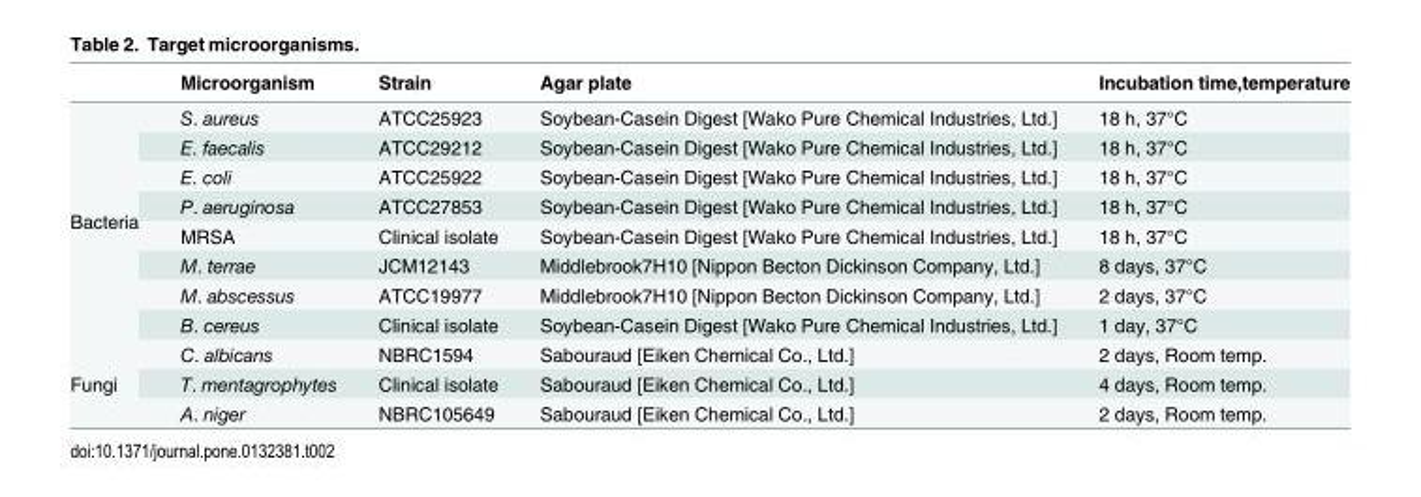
<table><thead><tr><td></td><td>Microorganism</td><td>Strain</td><td>Agar plate</td><td>Incubation time,temperature</td></tr></thead><tbody><tr><td rowspan="8">Bacteria</td><td>S. aureus</td><td>ATCC25923</td><td>Soybean-Casein Digest [Wako Pure Chemical Industries, Ltd.]</td><td>18 h, 37°C</td></tr><tr><td>E. faecalis</td><td>ATCC29212</td><td>Soybean-Casein Digest [Wako Pure Chemical Industries, Ltd.]</td><td>18 h, 37°C</td></tr><tr><td>E. coli</td><td>ATCC25922</td><td>Soybean-Casein Digest [Wako Pure Chemical Industries, Ltd.]</td><td>18 h, 37°C</td></tr><tr><td>P. aeruginosa</td><td>ATCC27853</td><td>Soybean-Casein Digest [Wako Pure Chemical Industries, Ltd.]</td><td>18 h, 37°C</td></tr><tr><td>MRSA</td><td>Clinical isolate</td><td>Soybean-Casein Digest [Wako Pure Chemical Industries, Ltd.]</td><td>18 h, 37°C</td></tr><tr><td>M. terrae</td><td>JCM12143</td><td>Middlebrook7H10 [Nippon Becton Dickinson Company, Ltd.]</td><td>8 days, 37°C</td></tr><tr><td>M. abscessus</td><td>ATCC19977</td><td>Middlebrook7H10 [Nippon Becton Dickinson Company, Ltd.]</td><td>2 days, 37°C</td></tr><tr><td>B. cereus</td><td>Clinical isolate</td><td>Soybean-Casein Digest [Wako Pure Chemical Industries, Ltd.]</td><td>1 day, 37°C</td></tr><tr><td rowspan="3">Fungi</td><td>C. albicans</td><td>NBRC1594</td><td>Sabouraud [Eiken Chemical Co., Ltd.]</td><td>2 days, Room temp.</td></tr><tr><td>T. mentagrophytes</td><td>Clinical isolate</td><td>Sabouraud [Eiken Chemical Co., Ltd.]</td><td>4 days, Room temp.</td></tr><tr><td>A. niger</td><td>NBRC105649</td><td>Sabouraud [Eiken Chemical Co., Ltd.]</td><td>2 days, Room temp.</td></tr></tbody></table>